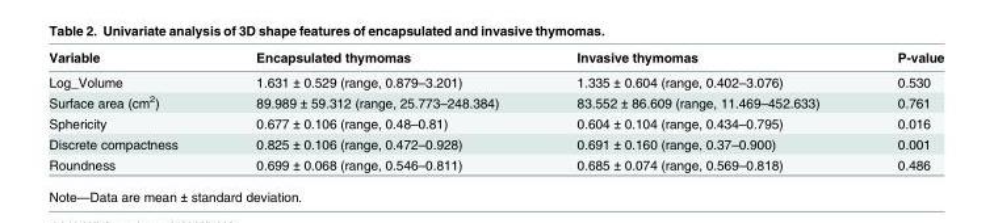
<table><thead><tr><td>Variable</td><td>Encapsulated thymomas</td><td>Invasive thymomas</td><td>P-value</td></tr></thead><tbody><tr><td>Log_Volume</td><td>1.631 ± 0.529 (range, 0.879–3.201)</td><td>1.335 ± 0.604 (range, 0.402–3.076)</td><td>0.530</td></tr><tr><td>Surface area (cm<sup>2</sup>)</td><td>89.989 ± 59.312 (range, 25.773–248.384)</td><td>83.552 ± 86.609 (range, 11.469–452.633)</td><td>0.761</td></tr><tr><td>Sphericity</td><td>0.677 ± 0.106 (range, 0.48–0.81)</td><td>0.604 ± 0.104 (range, 0.434–0.795)</td><td>0.016</td></tr><tr><td>Discrete compactness</td><td>0.825 ± 0.106 (range, 0.472–0.928)</td><td>0.691 ± 0.160 (range, 0.37–0.900)</td><td>0.001</td></tr><tr><td>Roundness</td><td>0.699 ± 0.068 (range, 0.546–0.811)</td><td>0.685 ± 0.074 (range, 0.569–0.818)</td><td>0.486</td></tr></tbody></table>